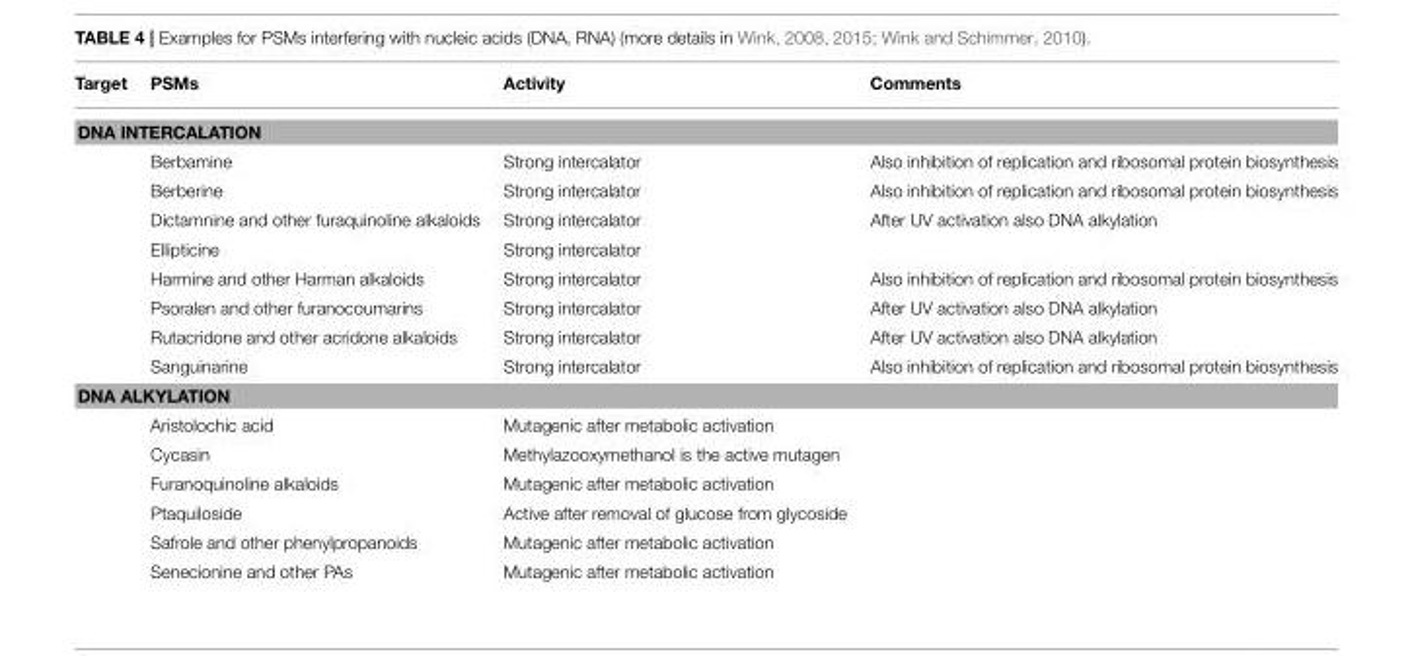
<table><thead><tr><td>Target</td><td>PSMs</td><td>Activity</td><td>Comments</td></tr></thead><tbody><tr><td colspan="4">DNA INTERCALATION</td></tr><tr><td></td><td>Berbamine</td><td>Strong intercalator</td><td>Also inhibition of replication and ribosomal protein biosynthesis</td></tr><tr><td></td><td>Berberine</td><td>Strong intercalator</td><td>Also inhibition of replication and ribosomal protein biosynthesis</td></tr><tr><td></td><td>Dictamnine and other furaquinoline alkaloids</td><td>Strong intercalator</td><td>After UV activation also DNA alkylation</td></tr><tr><td></td><td>Ellipticine</td><td>Strong intercalator</td><td></td></tr><tr><td></td><td>Harmine and other Harman alkaloids</td><td>Strong intercalator</td><td>Also inhibition of replication and ribosomal protein biosynthesis</td></tr><tr><td></td><td>Psoralen and other furanocoumarins</td><td>Strong intercalator</td><td>After UV activation also DNA alkylation</td></tr><tr><td></td><td>Rutacridone and other acridone alkaloids</td><td>Strong intercalator</td><td>After UV activation also DNA alkylation</td></tr><tr><td></td><td>Sanguinarine</td><td>Strong intercalator</td><td>Also inhibition of replication and ribosomal protein biosynthesis</td></tr><tr><td colspan="4">DNA ALKYLATION</td></tr><tr><td></td><td>Aristolochic acid</td><td>Mutagenic after metabolic activation</td><td></td></tr><tr><td></td><td>Cycasin</td><td>Methylazooxymethanol is the active mutagen</td><td></td></tr><tr><td></td><td>Furanoquinoline alkaloids</td><td>Mutagenic after metabolic activation</td><td></td></tr><tr><td></td><td>Ptaquiloside</td><td>Active after removal of glucose from glycoside</td><td></td></tr><tr><td></td><td>Safrole and other phenylpropanoids</td><td>Mutagenic after metabolic activation</td><td></td></tr><tr><td></td><td>Senecionine and other PAs</td><td>Mutagenic after metabolic activation</td><td></td></tr></tbody></table>